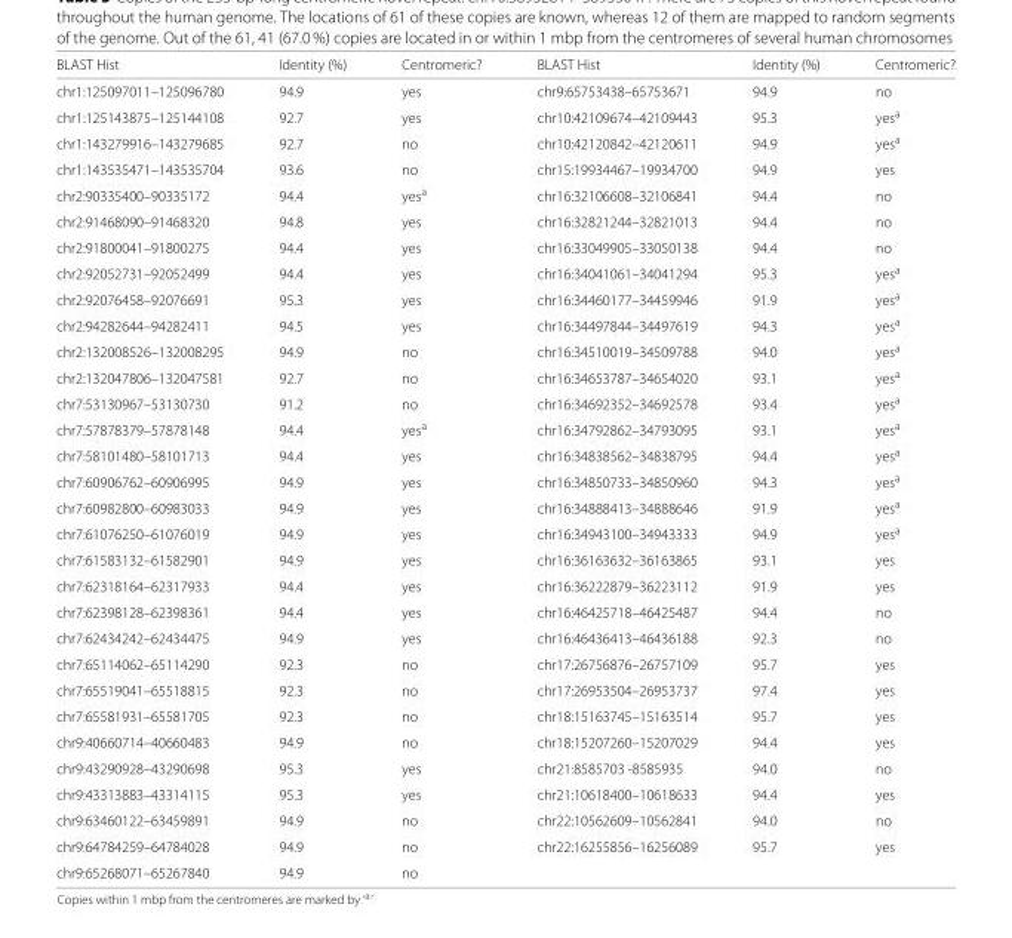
<table><thead><tr><td>BLAST Hist</td><td>Identity (%)</td><td>Centromeric?</td><td>BLAST Hist</td><td>Identity (%)</td><td>Centromeric?</td></tr></thead><tbody><tr><td>chr1:125097011–125096780</td><td>94.9</td><td>yes</td><td>chr9:65753438–65753671</td><td>94.9</td><td>no</td></tr><tr><td>chr1:125143875–125144108</td><td>92.7</td><td>yes</td><td>chr10:42109674–42109443</td><td>95.3</td><td>yes<sup>a</sup></td></tr><tr><td>chr1:143279916–143279685</td><td>92.7</td><td>no</td><td>chr10:42120842–42120611</td><td>94.9</td><td>yes<sup>a</sup></td></tr><tr><td>chr1:143535471–143535704</td><td>93.6</td><td>no</td><td>chr15:19934467–19934700</td><td>94.9</td><td>yes</td></tr><tr><td>chr2:90335400–90335172</td><td>94.4</td><td>yes<sup>a</sup></td><td>chr16:32106608–32106841</td><td>94.4</td><td>no</td></tr><tr><td>chr2:91468090–91468320</td><td>94.8</td><td>yes</td><td>chr16:32821244–32821013</td><td>94.4</td><td>no</td></tr><tr><td>chr2:91800041–91800275</td><td>94.4</td><td>yes</td><td>chr16:33049905–33050138</td><td>94.4</td><td>no</td></tr><tr><td>chr2:92052731–92052499</td><td>94.4</td><td>yes</td><td>chr16:34041061–34041294</td><td>95.3</td><td>yes<sup>a</sup></td></tr><tr><td>chr2:92076458–92076691</td><td>95.3</td><td>yes</td><td>chr16:34460177–34459946</td><td>91.9</td><td>yes<sup>a</sup></td></tr><tr><td>chr2:94282644–94282411</td><td>94.5</td><td>yes</td><td>chr16:34497844–34497619</td><td>94.3</td><td>yes<sup>a</sup></td></tr><tr><td>chr2:132008526–132008295</td><td>94.9</td><td>no</td><td>chr16:34510019–34509788</td><td>94.0</td><td>yes<sup>a</sup></td></tr><tr><td>chr2:132047806–132047581</td><td>92.7</td><td>no</td><td>chr16:34653787–34654020</td><td>93.1</td><td>yes<sup>a</sup></td></tr><tr><td>chr7:53130967–53130730</td><td>91.2</td><td>no</td><td>chr16:34692352–34692578</td><td>93.4</td><td>yes<sup>a</sup></td></tr><tr><td>chr7:57878379–57878148</td><td>94.4</td><td>yes<sup>a</sup></td><td>chr16:34792862–34793095</td><td>93.1</td><td>yes<sup>a</sup></td></tr><tr><td>chr7:58101480–58101713</td><td>94.4</td><td>yes</td><td>chr16:34838562–34838795</td><td>94.4</td><td>yes<sup>a</sup></td></tr><tr><td>chr7:60906762–60906995</td><td>94.9</td><td>yes</td><td>chr16:34850733–34850960</td><td>94.3</td><td>yes<sup>a</sup></td></tr><tr><td>chr7:60982800–60983033</td><td>94.9</td><td>yes</td><td>chr16:34888413–34888646</td><td>91.9</td><td>yes<sup>a</sup></td></tr><tr><td>chr7:61076250–61076019</td><td>94.9</td><td>yes</td><td>chr16:34943100–34943333</td><td>94.9</td><td>yes<sup>a</sup></td></tr><tr><td>chr7:61583132–61582901</td><td>94.9</td><td>yes</td><td>chr16:36163632–36163865</td><td>93.1</td><td>yes</td></tr><tr><td>chr7:62318164–62317933</td><td>94.4</td><td>yes</td><td>chr16:36222879–36223112</td><td>91.9</td><td>yes</td></tr><tr><td>chr7:62398128–62398361</td><td>94.4</td><td>yes</td><td>chr16:46425718–46425487</td><td>94.4</td><td>no</td></tr><tr><td>chr7:62434242–62434475</td><td>94.9</td><td>yes</td><td>chr16:46436413–46436188</td><td>92.3</td><td>no</td></tr><tr><td>chr7:65114062–65114290</td><td>92.3</td><td>no</td><td>chr17:26756876–26757109</td><td>95.7</td><td>yes</td></tr><tr><td>chr7:65519041–65518815</td><td>92.3</td><td>no</td><td>chr17:26953504–26953737</td><td>97.4</td><td>yes</td></tr><tr><td>chr7:65581931–65581705</td><td>92.3</td><td>no</td><td>chr18:15163745–15163514</td><td>95.7</td><td>yes</td></tr><tr><td>chr9:40660714–40660483</td><td>94.9</td><td>no</td><td>chr18:15207260–15207029</td><td>94.4</td><td>yes</td></tr><tr><td>chr9:43290928–43290698</td><td>95.3</td><td>yes</td><td>chr21:8585703 -8585935</td><td>94.0</td><td>no</td></tr><tr><td>chr9:43313883–43314115</td><td>95.3</td><td>yes</td><td>chr21:10618400–10618633</td><td>94.4</td><td>yes</td></tr><tr><td>chr9:63460122–63459891</td><td>94.9</td><td>no</td><td>chr22:10562609–10562841</td><td>94.0</td><td>no</td></tr><tr><td>chr9:64784259–64784028</td><td>94.9</td><td>no</td><td>chr22:16255856–16256089</td><td>95.7</td><td>yes</td></tr><tr><td>chr9:65268071–65267840</td><td>94.9</td><td>no</td><td></td><td></td><td></td></tr></tbody></table>